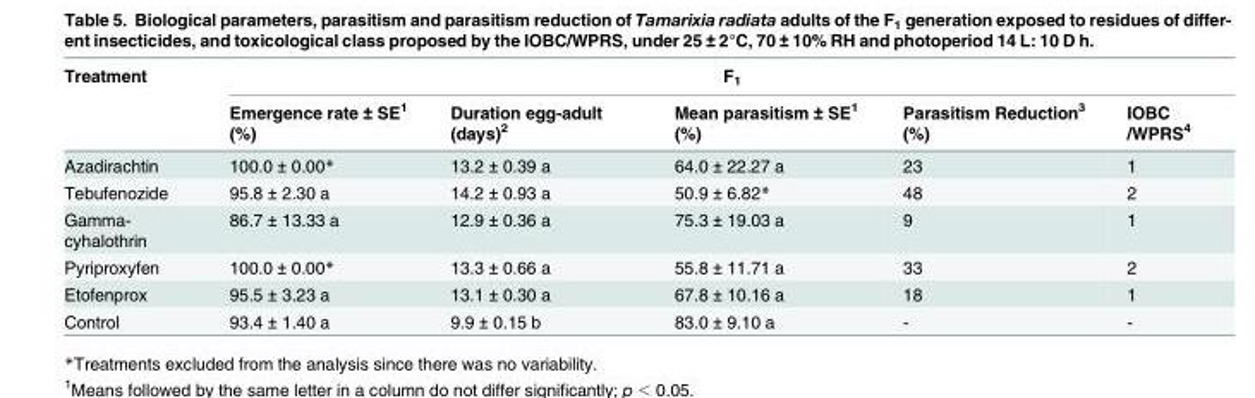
<table><thead><tr><td rowspan="2">Treatment</td><td colspan="5">F<sub>1</sub></td></tr><tr><td>Emergence rate ± SE<sup>1</sup> (%)</td><td>Duration egg-adult (days)<sup>2</sup></td><td>Mean parasitism ± SE<sup>1</sup> (%)</td><td>Parasitism Reduction<sup>3</sup> (%)</td><td>IOBC /WPRS<sup>4</sup></td></tr></thead><tbody><tr><td>Azadirachtin</td><td>100.0 ± 0.00*</td><td>13.2 ± 0.39 a</td><td>64.0 ± 22.27 a</td><td>23</td><td>1</td></tr><tr><td>Tebufenozide</td><td>95.8 ± 2.30 a</td><td>14.2 ± 0.93 a</td><td>50.9 ± 6.82*</td><td>48</td><td>2</td></tr><tr><td>Gamma- cyhalothrin</td><td>86.7 ± 13.33 a</td><td>12.9 ± 0.36 a</td><td>75.3 ± 19.03 a</td><td>9</td><td>1</td></tr><tr><td>Pyriproxyfen</td><td>100.0 ± 0.00*</td><td>13.3 ± 0.66 a</td><td>55.8 ± 11.71 a</td><td>33</td><td>2</td></tr><tr><td>Etofenprox</td><td>95.5 ± 3.23 a</td><td>13.1 ± 0.30 a</td><td>67.8 ± 10.16 a</td><td>18</td><td>1</td></tr><tr><td>Control</td><td>93.4 ± 1.40 a</td><td>9.9 ± 0.15 b</td><td>83.0 ± 9.10 a</td><td>-</td><td>-</td></tr></tbody></table>